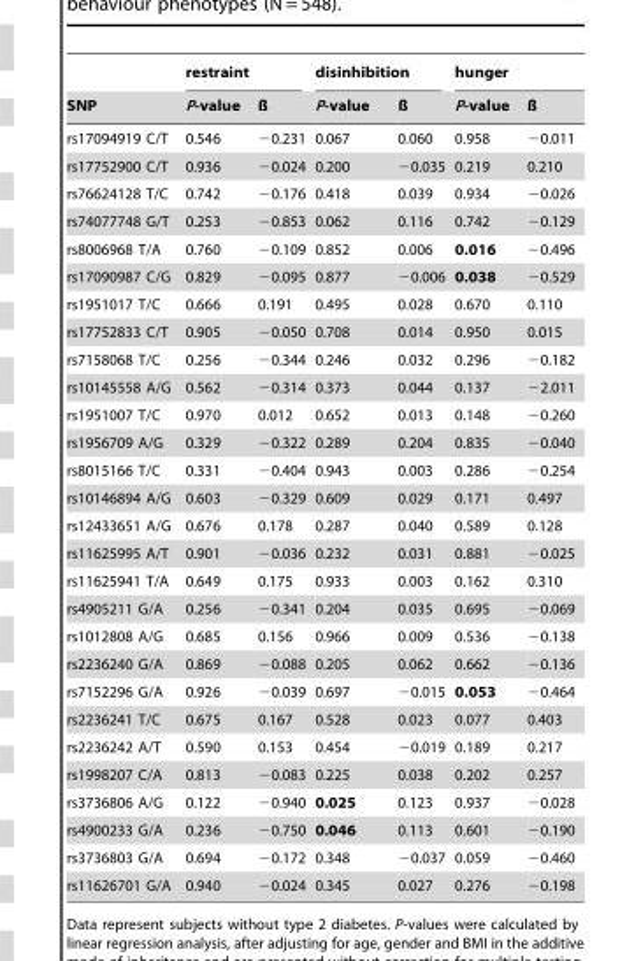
<table><thead><tr><td rowspan="2">SNP</td><td colspan="2">restraint</td><td colspan="2">disinhibition</td><td colspan="2">hunger</td></tr><tr><td>P-value</td><td>ß</td><td>P-value</td><td>ß</td><td>P-value</td><td>ß</td></tr></thead><tbody><tr><td>rs17094919 C/T</td><td>0.546</td><td>−0.231</td><td>0.067</td><td>0.060</td><td>0.958</td><td>−0.011</td></tr><tr><td>rs17752900 C/T</td><td>0.936</td><td>−0.024</td><td>0.200</td><td>−0.035</td><td>0.219</td><td>0.210</td></tr><tr><td>rs76624128 T/C</td><td>0.742</td><td>−0.176</td><td>0.418</td><td>0.039</td><td>0.934</td><td>−0.026</td></tr><tr><td>rs74077748 G/T</td><td>0.253</td><td>−0.853</td><td>0.062</td><td>0.116</td><td>0.742</td><td>−0.129</td></tr><tr><td>rs8006968 T/A</td><td>0.760</td><td>−0.109</td><td>0.852</td><td>0.006</td><td>0.016</td><td>−0.496</td></tr><tr><td>rs17090987 C/G</td><td>0.829</td><td>−0.095</td><td>0.877</td><td>−0.006</td><td>0.038</td><td>−0.529</td></tr><tr><td>rs1951017 T/C</td><td>0.666</td><td>0.191</td><td>0.495</td><td>0.028</td><td>0.670</td><td>0.110</td></tr><tr><td>rs17752833 C/T</td><td>0.905</td><td>−0.050</td><td>0.708</td><td>0.014</td><td>0.950</td><td>0.015</td></tr><tr><td>rs7158068 T/C</td><td>0.256</td><td>−0.344</td><td>0.246</td><td>0.032</td><td>0.296</td><td>−0.182</td></tr><tr><td>rs10145558 A/G</td><td>0.562</td><td>−0.314</td><td>0.373</td><td>0.044</td><td>0.137</td><td>−2.011</td></tr><tr><td>rs1951007 T/C</td><td>0.970</td><td>0.012</td><td>0.652</td><td>0.013</td><td>0.148</td><td>−0.260</td></tr><tr><td>rs1956709 A/G</td><td>0.329</td><td>−0.322</td><td>0.289</td><td>0.204</td><td>0.835</td><td>−0.040</td></tr><tr><td>rs8015166 T/C</td><td>0.331</td><td>−0.404</td><td>0.943</td><td>0.003</td><td>0.286</td><td>−0.254</td></tr><tr><td>rs10146894 A/G</td><td>0.603</td><td>−0.329</td><td>0.609</td><td>0.029</td><td>0.171</td><td>0.497</td></tr><tr><td>rs12433651 A/G</td><td>0.676</td><td>0.178</td><td>0.287</td><td>0.040</td><td>0.589</td><td>0.128</td></tr><tr><td>rs11625995 A/T</td><td>0.901</td><td>−0.036</td><td>0.232</td><td>0.031</td><td>0.881</td><td>−0.025</td></tr><tr><td>rs11625941 T/A</td><td>0.649</td><td>0.175</td><td>0.933</td><td>0.003</td><td>0.162</td><td>0.310</td></tr><tr><td>rs4905211 G/A</td><td>0.256</td><td>−0.341</td><td>0.204</td><td>0.035</td><td>0.695</td><td>−0.069</td></tr><tr><td>rs1012808 A/G</td><td>0.685</td><td>0.156</td><td>0.966</td><td>0.009</td><td>0.536</td><td>−0.138</td></tr><tr><td>rs2236240 G/A</td><td>0.869</td><td>−0.088</td><td>0.205</td><td>0.062</td><td>0.662</td><td>−0.136</td></tr><tr><td>rs7152296 G/A</td><td>0.926</td><td>−0.039</td><td>0.697</td><td>−0.015</td><td>0.053</td><td>−0.464</td></tr><tr><td>rs2236241 T/C</td><td>0.675</td><td>0.167</td><td>0.528</td><td>0.023</td><td>0.077</td><td>0.403</td></tr><tr><td>rs2236242 A/T</td><td>0.590</td><td>0.153</td><td>0.454</td><td>−0.019</td><td>0.189</td><td>0.217</td></tr><tr><td>rs1998207 C/A</td><td>0.813</td><td>−0.083</td><td>0.225</td><td>0.038</td><td>0.202</td><td>0.257</td></tr><tr><td>rs3736806 A/G</td><td>0.122</td><td>−0.940</td><td>0.025</td><td>0.123</td><td>0.937</td><td>−0.028</td></tr><tr><td>rs4900233 G/A</td><td>0.236</td><td>−0.750</td><td>0.046</td><td>0.113</td><td>0.601</td><td>−0.190</td></tr><tr><td>rs3736803 G/A</td><td>0.694</td><td>−0.172</td><td>0.348</td><td>−0.037</td><td>0.059</td><td>−0.460</td></tr><tr><td>rs11626701 G/A</td><td>0.940</td><td>−0.024</td><td>0.345</td><td>0.027</td><td>0.276</td><td>−0.198</td></tr></tbody></table>